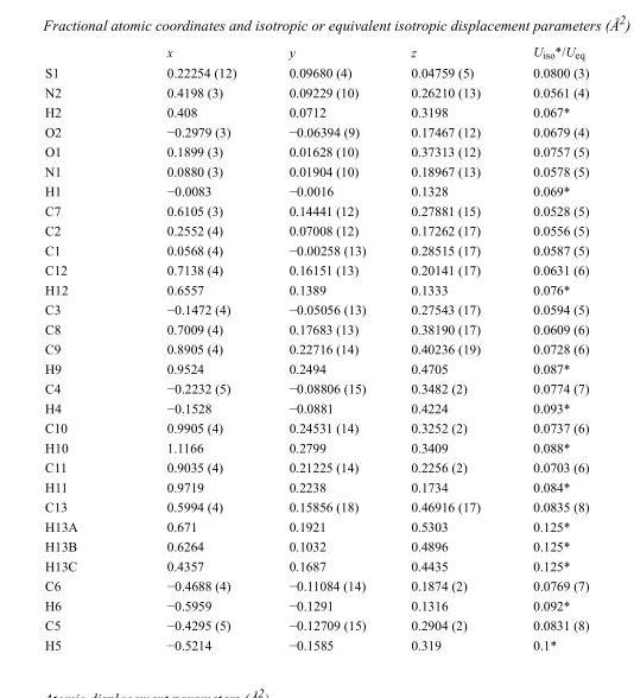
<table><thead><tr><td></td><td>x</td><td>y</td><td>z</td><td>U<sub>iso</sub>*/U<sub>eq</sub></td></tr></thead><tbody><tr><td>S1</td><td>0.22254 (12)</td><td>0.09680 (4)</td><td>0.04759 (5)</td><td>0.0800 (3)</td></tr><tr><td>N2</td><td>0.4198 (3)</td><td>0.09229 (10)</td><td>0.26210 (13)</td><td>0.0561 (4)</td></tr><tr><td>H2</td><td>0.408</td><td>0.0712</td><td>0.3198</td><td>0.067*</td></tr><tr><td>O2</td><td>−0.2979 (3)</td><td>−0.06394 (9)</td><td>0.17467 (12)</td><td>0.0679 (4)</td></tr><tr><td>O1</td><td>0.1899 (3)</td><td>0.01628 (10)</td><td>0.37313 (12)</td><td>0.0757 (5)</td></tr><tr><td>N1</td><td>0.0880 (3)</td><td>0.01904 (10)</td><td>0.18967 (13)</td><td>0.0578 (5)</td></tr><tr><td>H1</td><td>−0.0083</td><td>−0.0016</td><td>0.1328</td><td>0.069*</td></tr><tr><td>C7</td><td>0.6105 (3)</td><td>0.14441 (12)</td><td>0.27881 (15)</td><td>0.0528 (5)</td></tr><tr><td>C2</td><td>0.2552 (4)</td><td>0.07008 (12)</td><td>0.17262 (17)</td><td>0.0556 (5)</td></tr><tr><td>C1</td><td>0.0568 (4)</td><td>−0.00258 (13)</td><td>0.28515 (17)</td><td>0.0587 (5)</td></tr><tr><td>C12</td><td>0.7138 (4)</td><td>0.16151 (13)</td><td>0.20141 (17)</td><td>0.0631 (6)</td></tr><tr><td>H12</td><td>0.6557</td><td>0.1389</td><td>0.1333</td><td>0.076*</td></tr><tr><td>C3</td><td>−0.1472 (4)</td><td>−0.05056 (13)</td><td>0.27543 (17)</td><td>0.0594 (5)</td></tr><tr><td>C8</td><td>0.7009 (4)</td><td>0.17683 (13)</td><td>0.38190 (17)</td><td>0.0609 (6)</td></tr><tr><td>C9</td><td>0.8905 (4)</td><td>0.22716 (14)</td><td>0.40236 (19)</td><td>0.0728 (6)</td></tr><tr><td>H9</td><td>0.9524</td><td>0.2494</td><td>0.4705</td><td>0.087*</td></tr><tr><td>C4</td><td>−0.2232 (5)</td><td>−0.08806 (15)</td><td>0.3482 (2)</td><td>0.0774 (7)</td></tr><tr><td>H4</td><td>−0.1528</td><td>−0.0881</td><td>0.4224</td><td>0.093*</td></tr><tr><td>C10</td><td>0.9905 (4)</td><td>0.24531 (14)</td><td>0.3252 (2)</td><td>0.0737 (6)</td></tr><tr><td>H10</td><td>1.1166</td><td>0.2799</td><td>0.3409</td><td>0.088*</td></tr><tr><td>C11</td><td>0.9035 (4)</td><td>0.21225 (14)</td><td>0.2256 (2)</td><td>0.0703 (6)</td></tr><tr><td>H11</td><td>0.9719</td><td>0.2238</td><td>0.1734</td><td>0.084*</td></tr><tr><td>C13</td><td>0.5994 (4)</td><td>0.15856 (18)</td><td>0.46916 (17)</td><td>0.0835 (8)</td></tr><tr><td>H13A</td><td>0.671</td><td>0.1921</td><td>0.5303</td><td>0.125*</td></tr><tr><td>H13B</td><td>0.6264</td><td>0.1032</td><td>0.4896</td><td>0.125*</td></tr><tr><td>H13C</td><td>0.4357</td><td>0.1687</td><td>0.4435</td><td>0.125*</td></tr><tr><td>C6</td><td>−0.4688 (4)</td><td>−0.11084 (14)</td><td>0.1874 (2)</td><td>0.0769 (7)</td></tr><tr><td>H6</td><td>−0.5959</td><td>−0.1291</td><td>0.1316</td><td>0.092*</td></tr><tr><td>C5</td><td>−0.4295 (5)</td><td>−0.12709 (15)</td><td>0.2904 (2)</td><td>0.0831 (8)</td></tr><tr><td>H5</td><td>−0.5214</td><td>−0.1585</td><td>0.319</td><td>0.1*</td></tr></tbody></table>